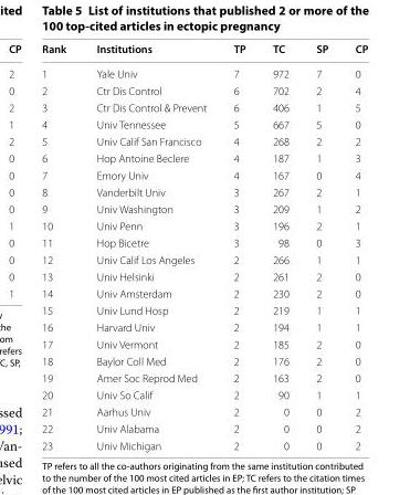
<table><thead><tr><td>Rank</td><td>Institutions</td><td>TP</td><td>TC</td><td>SP</td><td>CP</td></tr></thead><tbody><tr><td>1</td><td>Yale Univ</td><td>7</td><td>972</td><td>7</td><td>0</td></tr><tr><td>2</td><td>Ctr Dis Control</td><td>6</td><td>702</td><td>2</td><td>4</td></tr><tr><td>3</td><td>Ctr Dis Control &amp; Prevent</td><td>6</td><td>406</td><td>1</td><td>5</td></tr><tr><td>4</td><td>Univ Tennessee</td><td>5</td><td>667</td><td>5</td><td>0</td></tr><tr><td>5</td><td>Univ Calif San Francisco</td><td>4</td><td>268</td><td>2</td><td>2</td></tr><tr><td>6</td><td>Hop Antoine Beclere</td><td>4</td><td>187</td><td>1</td><td>3</td></tr><tr><td>7</td><td>Emory Univ</td><td>4</td><td>167</td><td>0</td><td>4</td></tr><tr><td>8</td><td>Vanderbilt Univ</td><td>3</td><td>267</td><td>2</td><td>1</td></tr><tr><td>9</td><td>Univ Washington</td><td>3</td><td>209</td><td>1</td><td>2</td></tr><tr><td>10</td><td>Univ Penn</td><td>3</td><td>196</td><td>2</td><td>1</td></tr><tr><td>11</td><td>Hop Bicetre</td><td>3</td><td>98</td><td>0</td><td>3</td></tr><tr><td>12</td><td>Univ Calif Los Angeles</td><td>2</td><td>266</td><td>1</td><td>1</td></tr><tr><td>13</td><td>Univ Helsinki</td><td>2</td><td>261</td><td>2</td><td>0</td></tr><tr><td>14</td><td>Univ Amsterdam</td><td>2</td><td>230</td><td>2</td><td>0</td></tr><tr><td>15</td><td>Univ Lund Hosp</td><td>2</td><td>219</td><td>1</td><td>1</td></tr><tr><td>16</td><td>Harvard Univ</td><td>2</td><td>194</td><td>1</td><td>1</td></tr><tr><td>17</td><td>Univ Vermont</td><td>2</td><td>185</td><td>2</td><td>0</td></tr><tr><td>18</td><td>Baylor Coll Med</td><td>2</td><td>176</td><td>2</td><td>0</td></tr><tr><td>19</td><td>Amer Soc Reprod Med</td><td>2</td><td>163</td><td>2</td><td>0</td></tr><tr><td>20</td><td>Univ So Calif</td><td>2</td><td>90</td><td>1</td><td>1</td></tr><tr><td>21</td><td>Aarhus Univ</td><td>2</td><td>0</td><td>0</td><td>2</td></tr><tr><td>22</td><td>Univ Alabama</td><td>2</td><td>0</td><td>0</td><td>2</td></tr><tr><td>23</td><td>Univ Michigan</td><td>2</td><td>0</td><td>0</td><td>2</td></tr></tbody></table>